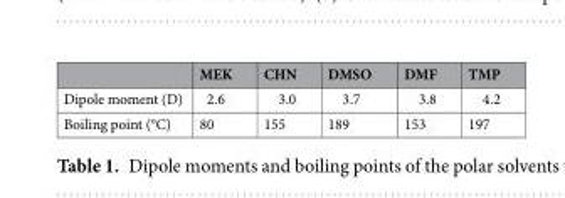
<table><thead><tr><td></td><td>MEK</td><td>CHN</td><td>DMSO</td><td>DMF</td><td>TMP</td></tr></thead><tbody><tr><td>Dipole moment (D)</td><td>2.6</td><td>3.0</td><td>3.7</td><td>3.8</td><td>4.2</td></tr><tr><td>Boiling point (°C)</td><td>80</td><td>155</td><td>189</td><td>153</td><td>197</td></tr></tbody></table>